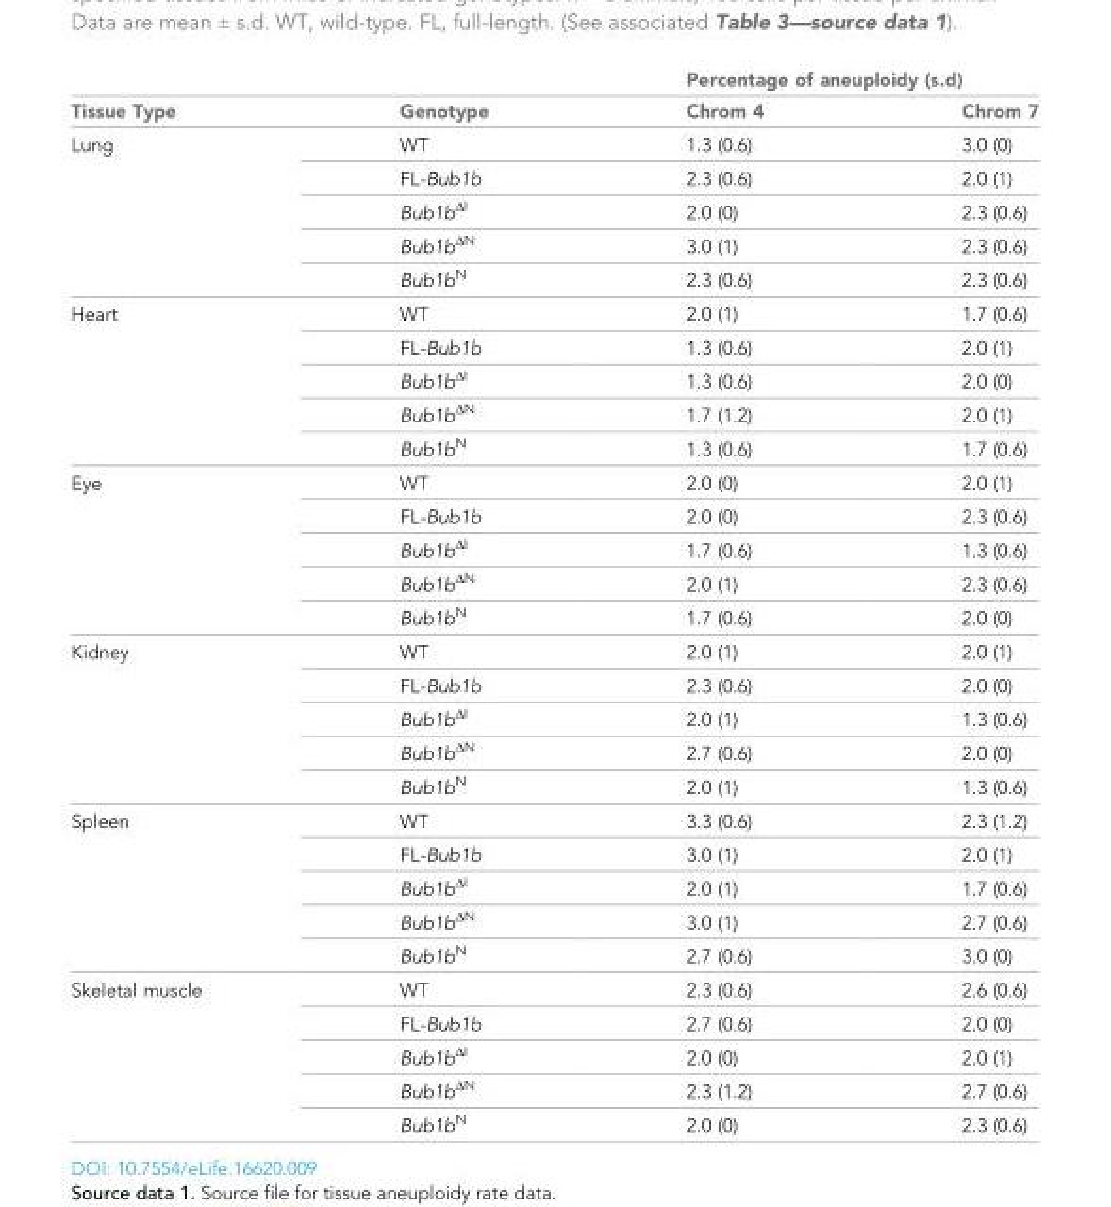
<table><thead><tr><td rowspan="2">Tissue Type</td><td rowspan="2">Genotype</td><td colspan="2">Percentage of aneuploidy (s.d)</td></tr><tr><td>Chrom 4</td><td>Chrom 7</td></tr></thead><tbody><tr><td rowspan="5">Lung</td><td>WT</td><td>1.3 (0.6)</td><td>3.0 (0)</td></tr><tr><td>FL-Bub1b</td><td>2.3 (0.6)</td><td>2.0 (1)</td></tr><tr><td>Bub1b<sup>ΔI</sup></td><td>2.0 (0)</td><td>2.3 (0.6)</td></tr><tr><td>Bub1b<sup>ΔN</sup></td><td>3.0 (1)</td><td>2.3 (0.6)</td></tr><tr><td>Bub1b<sup>N</sup></td><td>2.3 (0.6)</td><td>2.3 (0.6)</td></tr><tr><td rowspan="5">Heart</td><td>WT</td><td>2.0 (1)</td><td>1.7 (0.6)</td></tr><tr><td>FL-Bub1b</td><td>1.3 (0.6)</td><td>2.0 (1)</td></tr><tr><td>Bub1b<sup>ΔI</sup></td><td>1.3 (0.6)</td><td>2.0 (0)</td></tr><tr><td>Bub1b<sup>ΔN</sup></td><td>1.7 (1.2)</td><td>2.0 (1)</td></tr><tr><td>Bub1b<sup>N</sup></td><td>1.3 (0.6)</td><td>1.7 (0.6)</td></tr><tr><td rowspan="5">Eye</td><td>WT</td><td>2.0 (0)</td><td>2.0 (1)</td></tr><tr><td>FL-Bub1b</td><td>2.0 (0)</td><td>2.3 (0.6)</td></tr><tr><td>Bub1b<sup>ΔI</sup></td><td>1.7 (0.6)</td><td>1.3 (0.6)</td></tr><tr><td>Bub1b<sup>ΔN</sup></td><td>2.0 (1)</td><td>2.3 (0.6)</td></tr><tr><td>Bub1b<sup>N</sup></td><td>1.7 (0.6)</td><td>2.0 (0)</td></tr><tr><td rowspan="5">Kidney</td><td>WT</td><td>2.0 (1)</td><td>2.0 (1)</td></tr><tr><td>FL-Bub1b</td><td>2.3 (0.6)</td><td>2.0 (0)</td></tr><tr><td>Bub1b<sup>ΔI</sup></td><td>2.0 (1)</td><td>1.3 (0.6)</td></tr><tr><td>Bub1b<sup>ΔN</sup></td><td>2.7 (0.6)</td><td>2.0 (0)</td></tr><tr><td>Bub1b<sup>N</sup></td><td>2.0 (1)</td><td>1.3 (0.6)</td></tr><tr><td rowspan="5">Spleen</td><td>WT</td><td>3.3 (0.6)</td><td>2.3 (1.2)</td></tr><tr><td>FL-Bub1b</td><td>3.0 (1)</td><td>2.0 (1)</td></tr><tr><td>Bub1b<sup>ΔI</sup></td><td>2.0 (1)</td><td>1.7 (0.6)</td></tr><tr><td>Bub1b<sup>ΔN</sup></td><td>3.0 (1)</td><td>2.7 (0.6)</td></tr><tr><td>Bub1b<sup>N</sup></td><td>2.7 (0.6)</td><td>3.0 (0)</td></tr><tr><td rowspan="5">Skeletal muscle</td><td>WT</td><td>2.3 (0.6)</td><td>2.6 (0.6)</td></tr><tr><td>FL-Bub1b</td><td>2.7 (0.6)</td><td>2.0 (0)</td></tr><tr><td>Bub1b<sup>ΔI</sup></td><td>2.0 (0)</td><td>2.0 (1)</td></tr><tr><td>Bub1b<sup>ΔN</sup></td><td>2.3 (1.2)</td><td>2.7 (0.6)</td></tr><tr><td>Bub1b<sup>N</sup></td><td>2.0 (0)</td><td>2.3 (0.6)</td></tr></tbody></table>